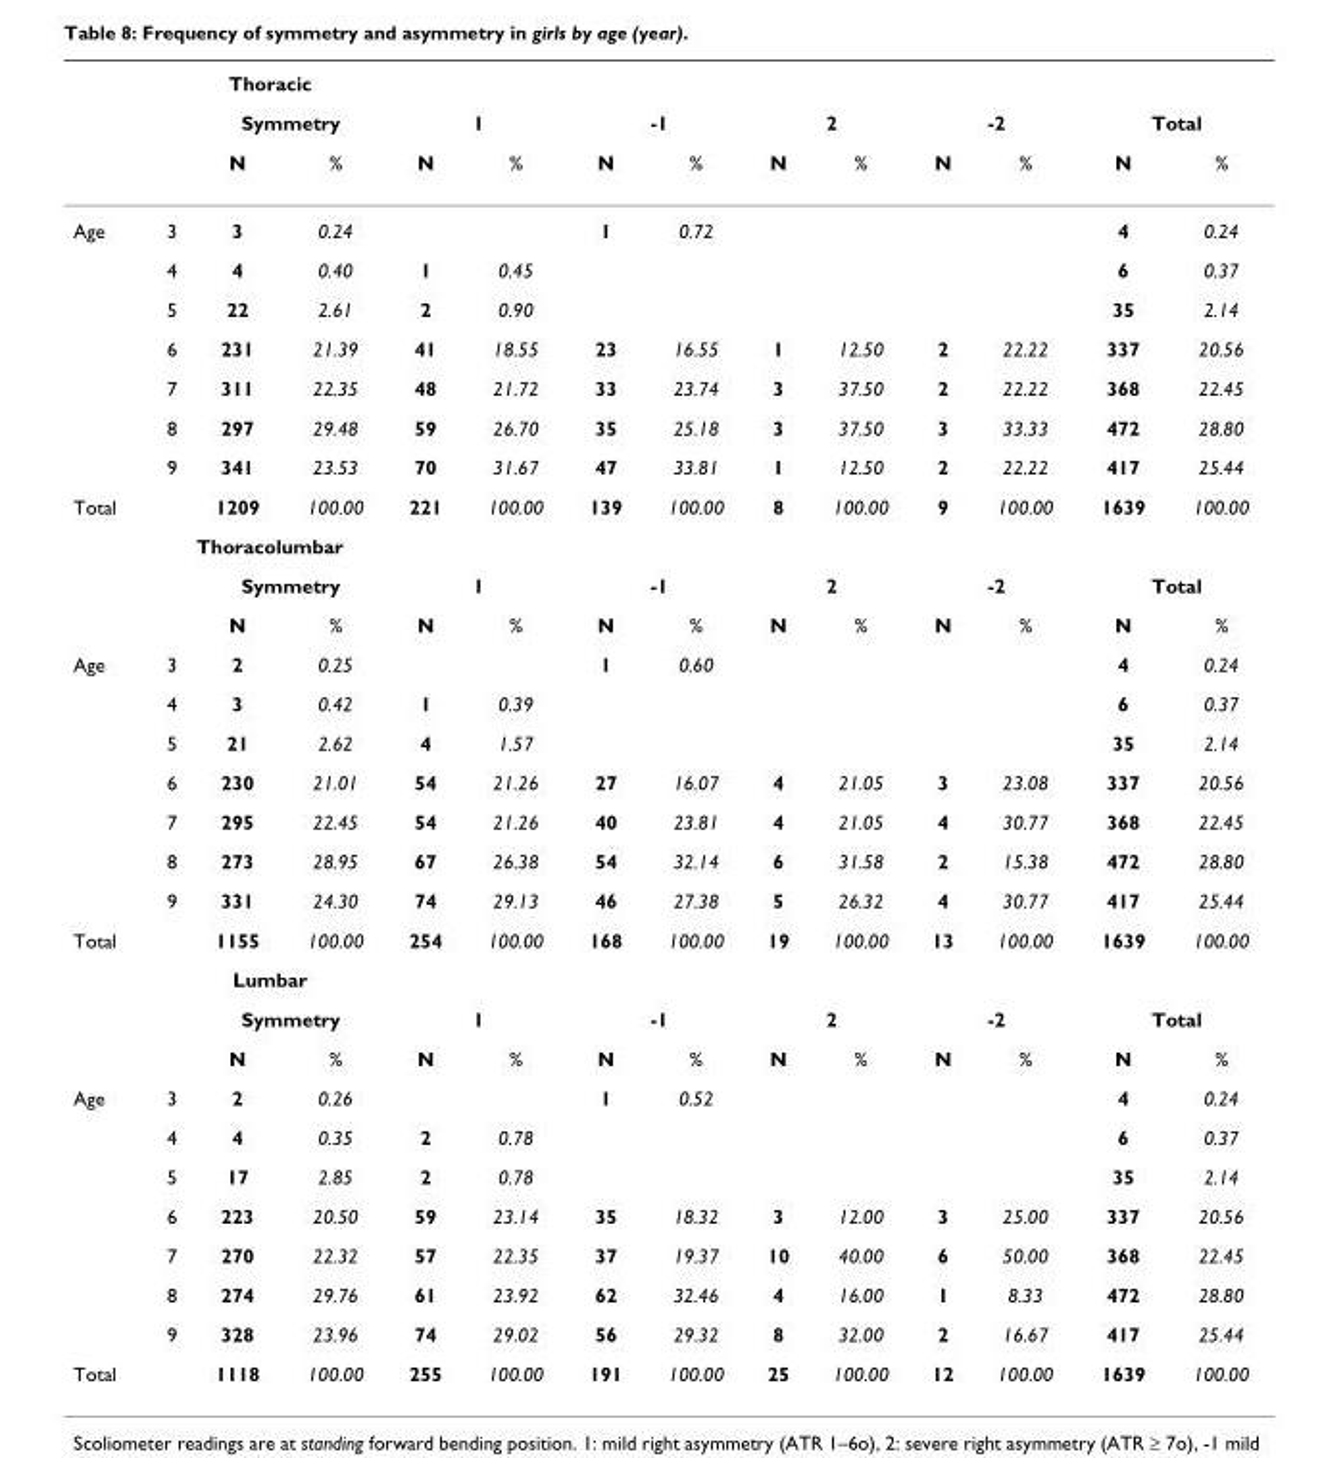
<table><thead><tr><td rowspan="3"></td><td colspan="3">Thoracic</td><td></td><td></td><td></td><td></td><td></td><td></td><td></td><td></td><td></td><td></td></tr><tr><td rowspan="2"></td><td colspan="2">Symmetry</td><td colspan="2">1</td><td colspan="2">-1</td><td colspan="2">2</td><td colspan="2">-2</td><td colspan="2">Total</td></tr><tr><td>N</td><td>%</td><td>N</td><td>%</td><td>N</td><td>%</td><td>N</td><td>%</td><td>N</td><td>%</td><td>N</td><td>%</td></tr></thead><tbody><tr><td rowspan="7">Age</td><td>3</td><td>3</td><td>0.24</td><td></td><td></td><td>1</td><td>0.72</td><td></td><td></td><td></td><td></td><td>4</td><td>0.24</td></tr><tr><td>4</td><td>4</td><td>0.40</td><td>1</td><td>0.45</td><td></td><td></td><td></td><td></td><td></td><td></td><td>6</td><td>0.37</td></tr><tr><td>5</td><td>22</td><td>2.61</td><td>2</td><td>0.90</td><td></td><td></td><td></td><td></td><td></td><td></td><td>35</td><td>2.14</td></tr><tr><td>6</td><td>231</td><td>21.39</td><td>41</td><td>18.55</td><td>23</td><td>16.55</td><td>1</td><td>12.50</td><td>2</td><td>22.22</td><td>337</td><td>20.56</td></tr><tr><td>7</td><td>311</td><td>22.35</td><td>48</td><td>21.72</td><td>33</td><td>23.74</td><td>3</td><td>37.50</td><td>2</td><td>22.22</td><td>368</td><td>22.45</td></tr><tr><td>8</td><td>297</td><td>29.48</td><td>59</td><td>26.70</td><td>35</td><td>25.18</td><td>3</td><td>37.50</td><td>3</td><td>33.33</td><td>472</td><td>28.80</td></tr><tr><td>9</td><td>341</td><td>23.53</td><td>70</td><td>31.67</td><td>47</td><td>33.81</td><td>1</td><td>12.50</td><td>2</td><td>22.22</td><td>417</td><td>25.44</td></tr><tr><td rowspan="4">Total</td><td></td><td>1209</td><td>100.00</td><td>221</td><td>100.00</td><td>139</td><td>100.00</td><td>8</td><td>100.00</td><td>9</td><td>100.00</td><td>1639</td><td>100.00</td></tr><tr><td colspan="3">Thoracolumbar</td><td></td><td></td><td></td><td></td><td></td><td></td><td></td><td></td><td></td><td></td></tr><tr><td></td><td colspan="2">Symmetry</td><td colspan="2">1</td><td colspan="2">-1</td><td colspan="2">2</td><td colspan="2">-2</td><td colspan="2">Total</td></tr><tr><td></td><td>N</td><td>%</td><td>N</td><td>%</td><td>N</td><td>%</td><td>N</td><td>%</td><td>N</td><td>%</td><td>N</td><td>%</td></tr><tr><td rowspan="7">Age</td><td>3</td><td>2</td><td>0.25</td><td></td><td></td><td>1</td><td>0.60</td><td></td><td></td><td></td><td></td><td>4</td><td>0.24</td></tr><tr><td>4</td><td>3</td><td>0.42</td><td>1</td><td>0.39</td><td></td><td></td><td></td><td></td><td></td><td></td><td>6</td><td>0.37</td></tr><tr><td>5</td><td>21</td><td>2.62</td><td>4</td><td>1.57</td><td></td><td></td><td></td><td></td><td></td><td></td><td>35</td><td>2.14</td></tr><tr><td>6</td><td>230</td><td>21.01</td><td>54</td><td>21.26</td><td>27</td><td>16.07</td><td>4</td><td>21.05</td><td>3</td><td>23.08</td><td>337</td><td>20.56</td></tr><tr><td>7</td><td>295</td><td>22.45</td><td>54</td><td>21.26</td><td>40</td><td>23.81</td><td>4</td><td>21.05</td><td>4</td><td>30.77</td><td>368</td><td>22.45</td></tr><tr><td>8</td><td>273</td><td>28.95</td><td>67</td><td>26.38</td><td>54</td><td>32.14</td><td>6</td><td>31.58</td><td>2</td><td>15.38</td><td>472</td><td>28.80</td></tr><tr><td>9</td><td>331</td><td>24.30</td><td>74</td><td>29.13</td><td>46</td><td>27.38</td><td>5</td><td>26.32</td><td>4</td><td>30.77</td><td>417</td><td>25.44</td></tr><tr><td rowspan="4">Total</td><td></td><td>1155</td><td>100.00</td><td>254</td><td>100.00</td><td>168</td><td>100.00</td><td>19</td><td>100.00</td><td>13</td><td>100.00</td><td>1639</td><td>100.00</td></tr><tr><td colspan="3">Lumbar</td><td></td><td></td><td></td><td></td><td></td><td></td><td></td><td></td><td></td><td></td></tr><tr><td></td><td colspan="2">Symmetry</td><td colspan="2">1</td><td colspan="2">-1</td><td colspan="2">2</td><td colspan="2">-2</td><td colspan="2">Total</td></tr><tr><td></td><td>N</td><td>%</td><td>N</td><td>%</td><td>N</td><td>%</td><td>N</td><td>%</td><td>N</td><td>%</td><td>N</td><td>%</td></tr><tr><td rowspan="7">Age</td><td>3</td><td>2</td><td>0.26</td><td></td><td></td><td>1</td><td>0.52</td><td></td><td></td><td></td><td></td><td>4</td><td>0.24</td></tr><tr><td>4</td><td>4</td><td>0.35</td><td>2</td><td>0.78</td><td></td><td></td><td></td><td></td><td></td><td></td><td>6</td><td>0.37</td></tr><tr><td>5</td><td>17</td><td>2.85</td><td>2</td><td>0.78</td><td></td><td></td><td></td><td></td><td></td><td></td><td>35</td><td>2.14</td></tr><tr><td>6</td><td>223</td><td>20.50</td><td>59</td><td>23.14</td><td>35</td><td>18.32</td><td>3</td><td>12.00</td><td>3</td><td>25.00</td><td>337</td><td>20.56</td></tr><tr><td>7</td><td>270</td><td>22.32</td><td>57</td><td>22.35</td><td>37</td><td>19.37</td><td>10</td><td>40.00</td><td>6</td><td>50.00</td><td>368</td><td>22.45</td></tr><tr><td>8</td><td>274</td><td>29.76</td><td>61</td><td>23.92</td><td>62</td><td>32.46</td><td>4</td><td>16.00</td><td>1</td><td>8.33</td><td>472</td><td>28.80</td></tr><tr><td>9</td><td>328</td><td>23.96</td><td>74</td><td>29.02</td><td>56</td><td>29.32</td><td>8</td><td>32.00</td><td>2</td><td>16.67</td><td>417</td><td>25.44</td></tr><tr><td>Total</td><td></td><td>1118</td><td>100.00</td><td>255</td><td>100.00</td><td>191</td><td>100.00</td><td>25</td><td>100.00</td><td>12</td><td>100.00</td><td>1639</td><td>100.00</td></tr></tbody></table>